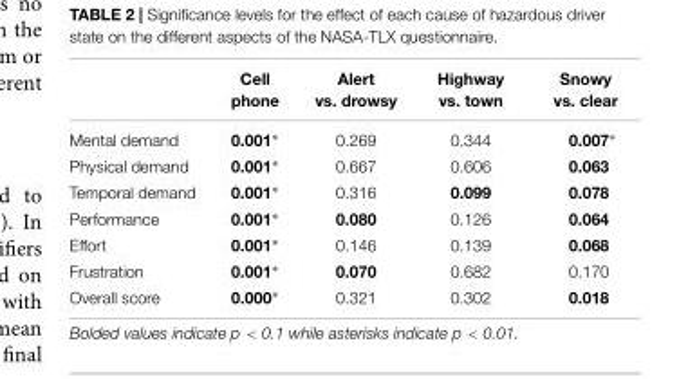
<table><thead><tr><td></td><td>Cell phone</td><td>Alert vs. drowsy</td><td>Highway vs. town</td><td>Snowy vs. clear</td></tr></thead><tbody><tr><td>Mental demand</td><td>0.001∗</td><td>0.269</td><td>0.344</td><td>0.007∗</td></tr><tr><td>Physical demand</td><td>0.001∗</td><td>0.667</td><td>0.606</td><td>0.063</td></tr><tr><td>Temporal demand</td><td>0.001∗</td><td>0.316</td><td>0.099</td><td>0.078</td></tr><tr><td>Performance</td><td>0.001∗</td><td>0.080</td><td>0.126</td><td>0.064</td></tr><tr><td>Effort</td><td>0.001∗</td><td>0.146</td><td>0.139</td><td>0.068</td></tr><tr><td>Frustration</td><td>0.001∗</td><td>0.070</td><td>0.682</td><td>0.170</td></tr><tr><td>Overall score</td><td>0.000∗</td><td>0.321</td><td>0.302</td><td>0.018</td></tr></tbody></table>